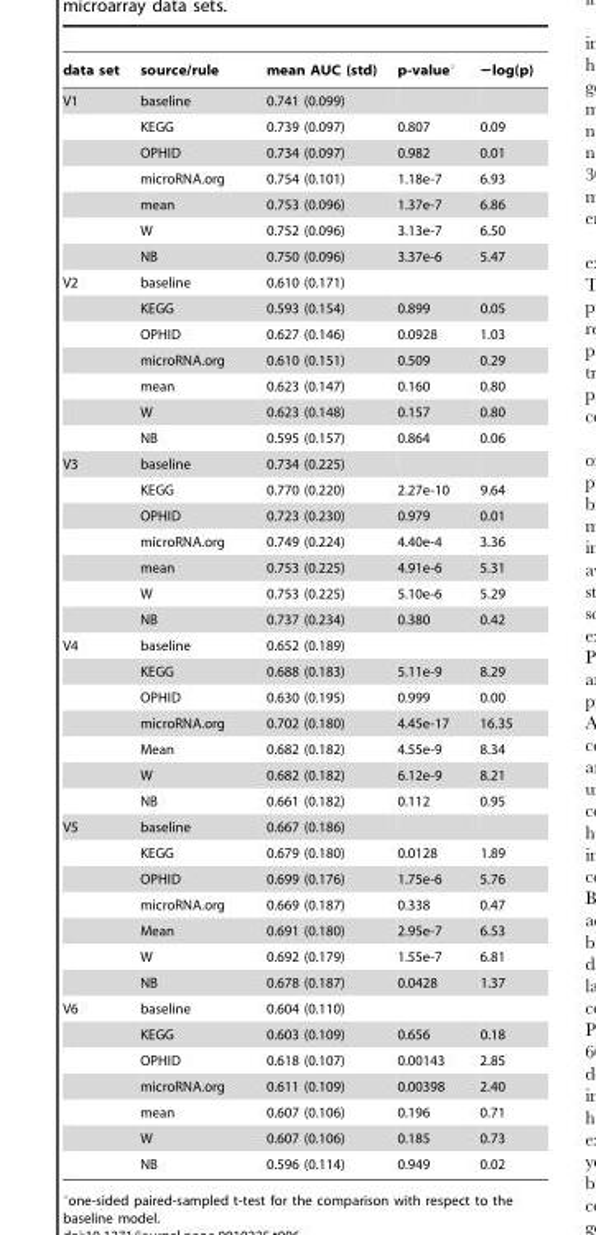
<table><thead><tr><td>data set</td><td>source/rule</td><td>mean AUC (std)</td><td>p-value°</td><td>−log(p)</td></tr></thead><tbody><tr><td rowspan="7">V1</td><td>baseline</td><td>0.741 (0.099)</td><td></td><td></td></tr><tr><td>KEGG</td><td>0.739 (0.097)</td><td>0.807</td><td>0.09</td></tr><tr><td>OPHID</td><td>0.734 (0.097)</td><td>0.982</td><td>0.01</td></tr><tr><td>microRNA.org</td><td>0.754 (0.101)</td><td>1.18e-7</td><td>6.93</td></tr><tr><td>mean</td><td>0.753 (0.096)</td><td>1.37e-7</td><td>6.86</td></tr><tr><td>W</td><td>0.752 (0.096)</td><td>3.13e-7</td><td>6.50</td></tr><tr><td>NB</td><td>0.750 (0.096)</td><td>3.37e-6</td><td>5.47</td></tr><tr><td rowspan="7">V2</td><td>baseline</td><td>0.610 (0.171)</td><td></td><td></td></tr><tr><td>KEGG</td><td>0.593 (0.154)</td><td>0.899</td><td>0.05</td></tr><tr><td>OPHID</td><td>0.627 (0.146)</td><td>0.0928</td><td>1.03</td></tr><tr><td>microRNA.org</td><td>0.610 (0.151)</td><td>0.509</td><td>0.29</td></tr><tr><td>mean</td><td>0.623 (0.147)</td><td>0.160</td><td>0.80</td></tr><tr><td>W</td><td>0.623 (0.148)</td><td>0.157</td><td>0.80</td></tr><tr><td>NB</td><td>0.595 (0.157)</td><td>0.864</td><td>0.06</td></tr><tr><td rowspan="7">V3</td><td>baseline</td><td>0.734 (0.225)</td><td></td><td></td></tr><tr><td>KEGG</td><td>0.770 (0.220)</td><td>2.27e-10</td><td>9.64</td></tr><tr><td>OPHID</td><td>0.723 (0.230)</td><td>0.979</td><td>0.01</td></tr><tr><td>microRNA.org</td><td>0.749 (0.224)</td><td>4.40e-4</td><td>3.36</td></tr><tr><td>mean</td><td>0.753 (0.225)</td><td>4.91e-6</td><td>5.31</td></tr><tr><td>W</td><td>0.753 (0.225)</td><td>5.10e-6</td><td>5.29</td></tr><tr><td>NB</td><td>0.737 (0.234)</td><td>0.380</td><td>0.42</td></tr><tr><td rowspan="7">V4</td><td>baseline</td><td>0.652 (0.189)</td><td></td><td></td></tr><tr><td>KEGG</td><td>0.688 (0.183)</td><td>5.11e-9</td><td>8.29</td></tr><tr><td>OPHID</td><td>0.630 (0.195)</td><td>0.999</td><td>0.00</td></tr><tr><td>microRNA.org</td><td>0.702 (0.180)</td><td>4.45e-17</td><td>16.35</td></tr><tr><td>Mean</td><td>0.682 (0.182)</td><td>4.55e-9</td><td>8.34</td></tr><tr><td>W</td><td>0.682 (0.182)</td><td>6.12e-9</td><td>8.21</td></tr><tr><td>NB</td><td>0.661 (0.182)</td><td>0.112</td><td>0.95</td></tr><tr><td rowspan="7">V5</td><td>baseline</td><td>0.667 (0.186)</td><td></td><td></td></tr><tr><td>KEGG</td><td>0.679 (0.180)</td><td>0.0128</td><td>1.89</td></tr><tr><td>OPHID</td><td>0.699 (0.176)</td><td>1.75e-6</td><td>5.76</td></tr><tr><td>microRNA.org</td><td>0.669 (0.187)</td><td>0.338</td><td>0.47</td></tr><tr><td>Mean</td><td>0.691 (0.180)</td><td>2.95e-7</td><td>6.53</td></tr><tr><td>W</td><td>0.692 (0.179)</td><td>1.55e-7</td><td>6.81</td></tr><tr><td>NB</td><td>0.678 (0.187)</td><td>0.0428</td><td>1.37</td></tr><tr><td rowspan="7">V6</td><td>baseline</td><td>0.604 (0.110)</td><td></td><td></td></tr><tr><td>KEGG</td><td>0.603 (0.109)</td><td>0.656</td><td>0.18</td></tr><tr><td>OPHID</td><td>0.618 (0.107)</td><td>0.00143</td><td>2.85</td></tr><tr><td>microRNA.org</td><td>0.611 (0.109)</td><td>0.00398</td><td>2.40</td></tr><tr><td>mean</td><td>0.607 (0.106)</td><td>0.196</td><td>0.71</td></tr><tr><td>W</td><td>0.607 (0.106)</td><td>0.185</td><td>0.73</td></tr><tr><td>NB</td><td>0.596 (0.114)</td><td>0.949</td><td>0.02</td></tr></tbody></table>